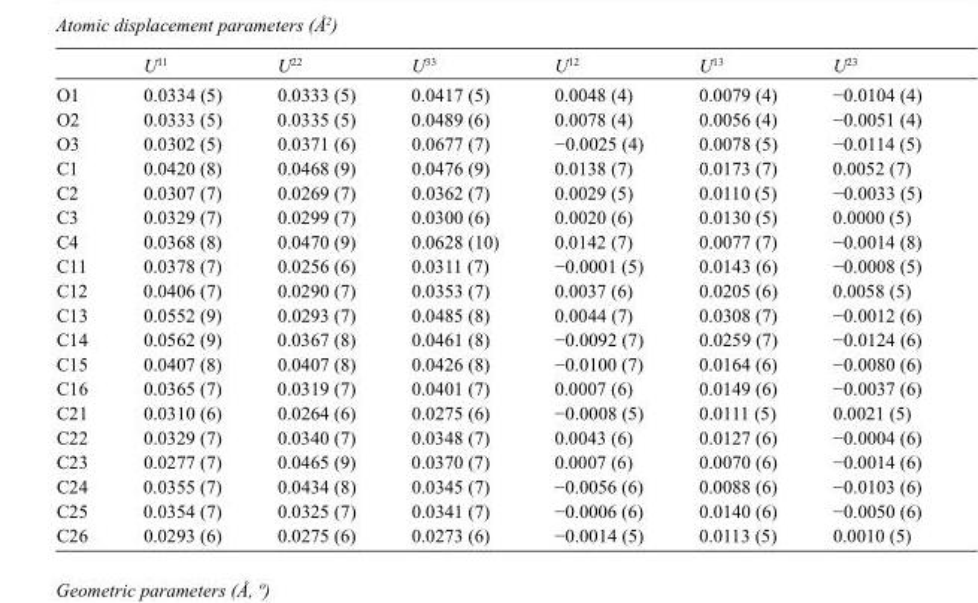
<table><thead><tr><td></td><td>U<sup>11</sup></td><td>U<sup>22</sup></td><td>U<sup>33</sup></td><td>U<sup>12</sup></td><td>U<sup>13</sup></td><td>U<sup>23</sup></td></tr></thead><tbody><tr><td>O1</td><td>0.0334 (5)</td><td>0.0333 (5)</td><td>0.0417 (5)</td><td>0.0048 (4)</td><td>0.0079 (4)</td><td>−0.0104 (4)</td></tr><tr><td>O2</td><td>0.0333 (5)</td><td>0.0335 (5)</td><td>0.0489 (6)</td><td>0.0078 (4)</td><td>0.0056 (4)</td><td>−0.0051 (4)</td></tr><tr><td>O3</td><td>0.0302 (5)</td><td>0.0371 (6)</td><td>0.0677 (7)</td><td>−0.0025 (4)</td><td>0.0078 (5)</td><td>−0.0114 (5)</td></tr><tr><td>C1</td><td>0.0420 (8)</td><td>0.0468 (9)</td><td>0.0476 (9)</td><td>0.0138 (7)</td><td>0.0173 (7)</td><td>0.0052 (7)</td></tr><tr><td>C2</td><td>0.0307 (7)</td><td>0.0269 (7)</td><td>0.0362 (7)</td><td>0.0029 (5)</td><td>0.0110 (5)</td><td>−0.0033 (5)</td></tr><tr><td>C3</td><td>0.0329 (7)</td><td>0.0299 (7)</td><td>0.0300 (6)</td><td>0.0020 (6)</td><td>0.0130 (5)</td><td>0.0000 (5)</td></tr><tr><td>C4</td><td>0.0368 (8)</td><td>0.0470 (9)</td><td>0.0628 (10)</td><td>0.0142 (7)</td><td>0.0077 (7)</td><td>−0.0014 (8)</td></tr><tr><td>C11</td><td>0.0378 (7)</td><td>0.0256 (6)</td><td>0.0311 (7)</td><td>−0.0001 (5)</td><td>0.0143 (6)</td><td>−0.0008 (5)</td></tr><tr><td>C12</td><td>0.0406 (7)</td><td>0.0290 (7)</td><td>0.0353 (7)</td><td>0.0037 (6)</td><td>0.0205 (6)</td><td>0.0058 (5)</td></tr><tr><td>C13</td><td>0.0552 (9)</td><td>0.0293 (7)</td><td>0.0485 (8)</td><td>0.0044 (7)</td><td>0.0308 (7)</td><td>−0.0012 (6)</td></tr><tr><td>C14</td><td>0.0562 (9)</td><td>0.0367 (8)</td><td>0.0461 (8)</td><td>−0.0092 (7)</td><td>0.0259 (7)</td><td>−0.0124 (6)</td></tr><tr><td>C15</td><td>0.0407 (8)</td><td>0.0407 (8)</td><td>0.0426 (8)</td><td>−0.0100 (7)</td><td>0.0164 (6)</td><td>−0.0080 (6)</td></tr><tr><td>C16</td><td>0.0365 (7)</td><td>0.0319 (7)</td><td>0.0401 (7)</td><td>0.0007 (6)</td><td>0.0149 (6)</td><td>−0.0037 (6)</td></tr><tr><td>C21</td><td>0.0310 (6)</td><td>0.0264 (6)</td><td>0.0275 (6)</td><td>−0.0008 (5)</td><td>0.0111 (5)</td><td>0.0021 (5)</td></tr><tr><td>C22</td><td>0.0329 (7)</td><td>0.0340 (7)</td><td>0.0348 (7)</td><td>0.0043 (6)</td><td>0.0127 (6)</td><td>−0.0004 (6)</td></tr><tr><td>C23</td><td>0.0277 (7)</td><td>0.0465 (9)</td><td>0.0370 (7)</td><td>0.0007 (6)</td><td>0.0070 (6)</td><td>−0.0014 (6)</td></tr><tr><td>C24</td><td>0.0355 (7)</td><td>0.0434 (8)</td><td>0.0345 (7)</td><td>−0.0056 (6)</td><td>0.0088 (6)</td><td>−0.0103 (6)</td></tr><tr><td>C25</td><td>0.0354 (7)</td><td>0.0325 (7)</td><td>0.0341 (7)</td><td>−0.0006 (6)</td><td>0.0140 (6)</td><td>−0.0050 (6)</td></tr><tr><td>C26</td><td>0.0293 (6)</td><td>0.0275 (6)</td><td>0.0273 (6)</td><td>−0.0014 (5)</td><td>0.0113 (5)</td><td>0.0010 (5)</td></tr></tbody></table>